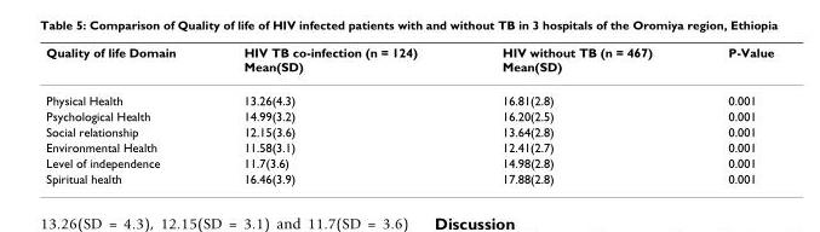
<table><thead><tr><td>Quality of life Domain</td><td>HIV TB co-infection (n = 124) Mean(SD)</td><td>HIV without TB (n = 467) Mean(SD)</td><td>P-Value</td></tr></thead><tbody><tr><td>Physical Health</td><td>13.26(4.3)</td><td>16.81(2.8)</td><td>0.001</td></tr><tr><td>Psychological Health</td><td>14.99(3.2)</td><td>16.20(2.5)</td><td>0.001</td></tr><tr><td>Social relationship</td><td>12.15(3.6)</td><td>13.64(2.8)</td><td>0.001</td></tr><tr><td>Environmental Health</td><td>11.58(3.1)</td><td>12.41(2.7)</td><td>0.001</td></tr><tr><td>Level of independence</td><td>11.7(3.6)</td><td>14.98(2.8)</td><td>0.001</td></tr><tr><td>Spiritual health</td><td>16.46(3.9)</td><td>17.88(2.8)</td><td>0.001</td></tr></tbody></table>